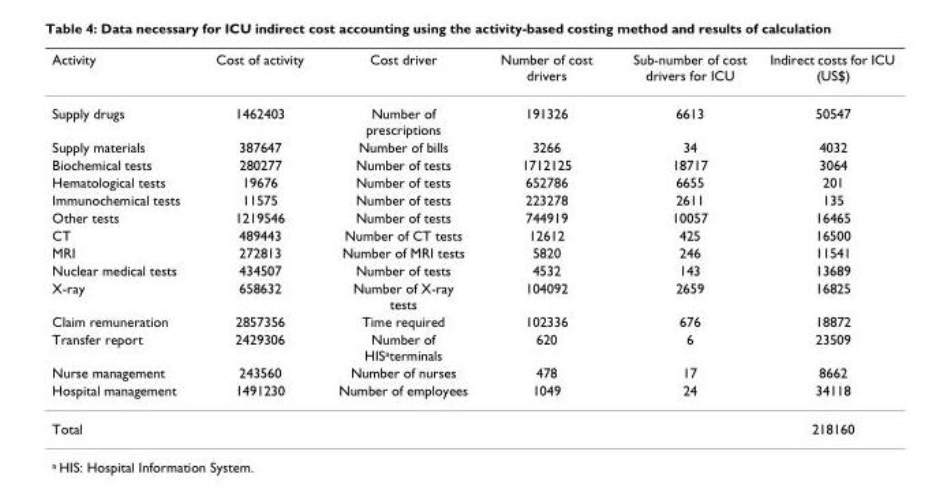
<table><thead><tr><td>Activity</td><td>Cost of activity</td><td>Cost driver</td><td>Number of cost drivers</td><td>Sub-number of cost drivers for ICU</td><td>Indirect costs for ICU (US$)</td></tr></thead><tbody><tr><td>Supply drugs</td><td>1462403</td><td>Number of prescriptions</td><td>191326</td><td>6613</td><td>50547</td></tr><tr><td>Supply materials</td><td>387647</td><td>Number of bills</td><td>3266</td><td>34</td><td>4032</td></tr><tr><td>Biochemical tests</td><td>280277</td><td>Number of tests</td><td>1712125</td><td>18717</td><td>3064</td></tr><tr><td>Hematological tests</td><td>19676</td><td>Number of tests</td><td>652786</td><td>6655</td><td>201</td></tr><tr><td>Immunochemical tests</td><td>11575</td><td>Number of tests</td><td>223278</td><td>2611</td><td>135</td></tr><tr><td>Other tests</td><td>1219546</td><td>Number of tests</td><td>744919</td><td>10057</td><td>16465</td></tr><tr><td>CT</td><td>489443</td><td>Number of CT tests</td><td>12612</td><td>425</td><td>16500</td></tr><tr><td>MRI</td><td>272813</td><td>Number of MRI tests</td><td>5820</td><td>246</td><td>11541</td></tr><tr><td>Nuclear medical tests</td><td>434507</td><td>Number of tests</td><td>4532</td><td>143</td><td>13689</td></tr><tr><td>X-ray</td><td>658632</td><td>Number of X-ray tests</td><td>104092</td><td>2659</td><td>16825</td></tr><tr><td>Claim remuneration</td><td>2857356</td><td>Time required</td><td>102336</td><td>676</td><td>18872</td></tr><tr><td>Transfer report</td><td>2429306</td><td>Number of HISaterminals</td><td>620</td><td>6</td><td>23509</td></tr><tr><td>Nurse management</td><td>243560</td><td>Number of nurses</td><td>478</td><td>17</td><td>8662</td></tr><tr><td>Hospital management</td><td>1491230</td><td>Number of employees</td><td>1049</td><td>24</td><td>34118</td></tr><tr><td>Total</td><td></td><td></td><td></td><td></td><td>218160</td></tr></tbody></table>